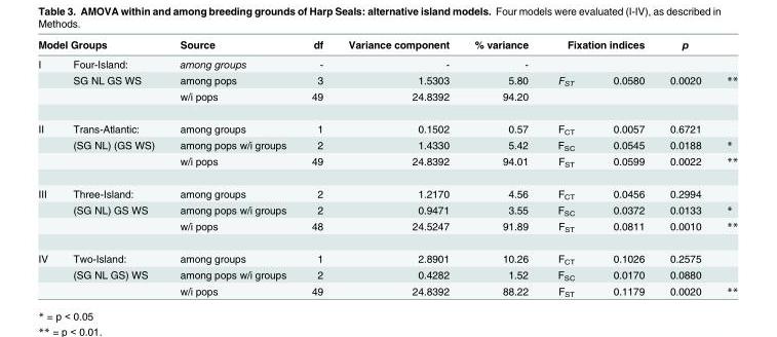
<table><thead><tr><td colspan="2">Model Groups</td><td rowspan="2">Source among groups</td><td rowspan="2">df -</td><td rowspan="2">Variance component -</td><td rowspan="2">% variance -</td><td colspan="2">Fixation indices</td><td rowspan="2">p</td><td rowspan="2"></td></tr><tr><td>I</td><td>Four-Island:</td><td></td><td></td></tr></thead><tbody><tr><td></td><td>SG NL GS WS</td><td>among pops</td><td>3</td><td>1.5303</td><td>5.80</td><td>F<sub>ST</sub></td><td>0.0580</td><td>0.0020</td><td>**</td></tr><tr><td></td><td></td><td>w/i pops</td><td>49</td><td>24.8392</td><td>94.20</td><td></td><td></td><td></td><td></td></tr><tr><td rowspan="3">II</td><td>Trans-Atlantic:</td><td>among groups</td><td>1</td><td>0.1502</td><td>0.57</td><td>F<sub>CT</sub></td><td>0.0057</td><td>0.6721</td><td></td></tr><tr><td>(SG NL) (GS WS)</td><td>among pops w/i groups</td><td>2</td><td>1.4330</td><td>5.42</td><td>F<sub>SC</sub></td><td>0.0545</td><td>0.0188</td><td>*</td></tr><tr><td></td><td>w/i pops</td><td>49</td><td>24.8392</td><td>94.01</td><td>F<sub>ST</sub></td><td>0.0599</td><td>0.0022</td><td>**</td></tr><tr><td rowspan="3">III</td><td>Three-Island:</td><td>among groups</td><td>2</td><td>1.2170</td><td>4.56</td><td>F<sub>CT</sub></td><td>0.0456</td><td>0.2994</td><td></td></tr><tr><td>(SG NL) GS WS</td><td>among pops w/i groups</td><td>2</td><td>0.9471</td><td>3.55</td><td>F<sub>SC</sub></td><td>0.0372</td><td>0.0133</td><td>*</td></tr><tr><td></td><td>w/i pops</td><td>48</td><td>24.5247</td><td>91.89</td><td>F<sub>ST</sub></td><td>0.0811</td><td>0.0010</td><td>**</td></tr><tr><td rowspan="3">IV</td><td>Two-Island:</td><td>among groups</td><td>1</td><td>2.8901</td><td>10.26</td><td>F<sub>CT</sub></td><td>0.1026</td><td>0.2575</td><td></td></tr><tr><td>(SG NL GS) WS</td><td>among pops w/i groups</td><td>2</td><td>0.4282</td><td>1.52</td><td>F<sub>SC</sub></td><td>0.0170</td><td>0.0880</td><td></td></tr><tr><td></td><td>w/i pops</td><td>49</td><td>24.8392</td><td>88.22</td><td>F<sub>ST</sub></td><td>0.1179</td><td>0.0020</td><td>**</td></tr></tbody></table>